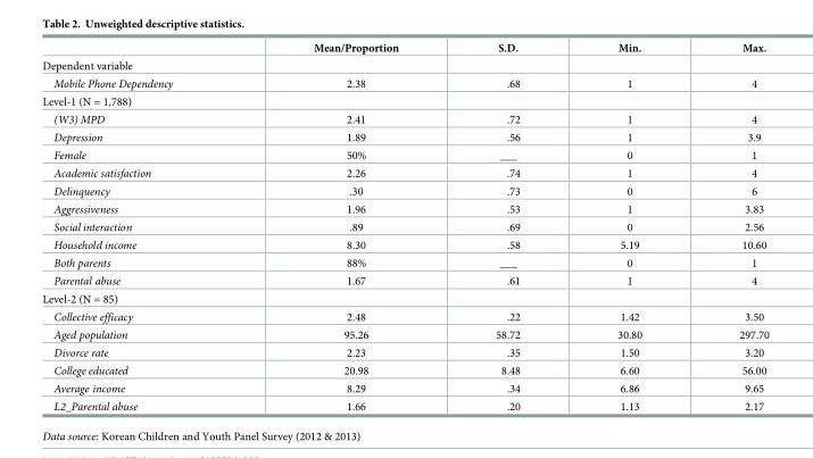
<table><thead><tr><td></td><td>Mean/Proportion</td><td>S.D.</td><td>Min.</td><td>Max.</td></tr></thead><tbody><tr><td colspan="5">Dependent variable</td></tr><tr><td>Mobile Phone Dependency</td><td>2.38</td><td>.68</td><td>1</td><td>4</td></tr><tr><td colspan="5">Level-1 (N = 1,788)</td></tr><tr><td>(W3) MPD</td><td>2.41</td><td>.72</td><td>1</td><td>4</td></tr><tr><td>Depression</td><td>1.89</td><td>.56</td><td>1</td><td>3.9</td></tr><tr><td>Female</td><td>50%</td><td>___</td><td>0</td><td>1</td></tr><tr><td>Academic satisfaction</td><td>2.26</td><td>.74</td><td>1</td><td>4</td></tr><tr><td>Delinquency</td><td>.30</td><td>.73</td><td>0</td><td>6</td></tr><tr><td>Aggressiveness</td><td>1.96</td><td>.53</td><td>1</td><td>3.83</td></tr><tr><td>Social interaction</td><td>.89</td><td>.69</td><td>0</td><td>2.56</td></tr><tr><td>Household income</td><td>8.30</td><td>.58</td><td>5.19</td><td>10.60</td></tr><tr><td>Both parents</td><td>88%</td><td>___</td><td>0</td><td>1</td></tr><tr><td>Parental abuse</td><td>1.67</td><td>.61</td><td>1</td><td>4</td></tr><tr><td colspan="5">Level-2 (N = 85)</td></tr><tr><td>Collective efficacy</td><td>2.48</td><td>.22</td><td>1.42</td><td>3.50</td></tr><tr><td>Aged population</td><td>95.26</td><td>58.72</td><td>30.80</td><td>297.70</td></tr><tr><td>Divorce rate</td><td>2.23</td><td>.35</td><td>1.50</td><td>3.20</td></tr><tr><td>College educated</td><td>20.98</td><td>8.48</td><td>6.60</td><td>56.00</td></tr><tr><td>Average income</td><td>8.29</td><td>.34</td><td>6.86</td><td>9.65</td></tr><tr><td>L2_Parental abuse</td><td>1.66</td><td>.20</td><td>1.13</td><td>2.17</td></tr></tbody></table>